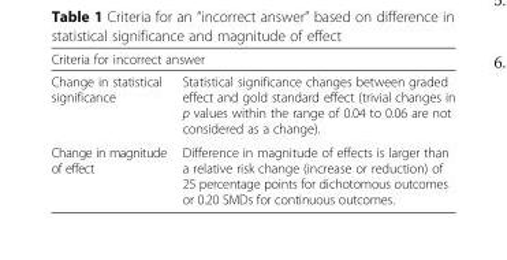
<table><thead><tr><td colspan="2">Criteria for incorrect answer</td></tr><tr><td>Change in statistical significance</td><td>Statistical significance changes between graded effect and gold standard effect (trivial changes in p values within the range of 0.04 to 0.06 are not considered as a change).</td></tr></thead><tbody><tr><td>Change in magnitude of effect</td><td>Difference in magnitude of effects is larger than a relative risk change (increase or reduction) of 25 percentage points for dichotomous outcomes or 0.20 SMDs for continuous outcomes.</td></tr></tbody></table>